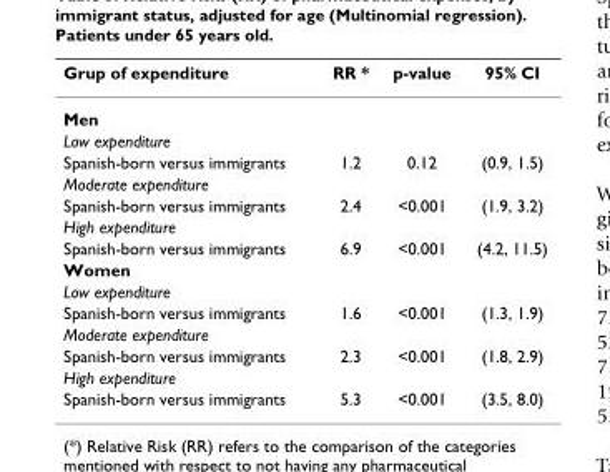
<table><thead><tr><td>Grup of expenditure</td><td>RR *</td><td>p-value</td><td>95% CI</td></tr></thead><tbody><tr><td colspan="4">Men</td></tr><tr><td colspan="4">Low expenditure</td></tr><tr><td>Spanish-born versus immigrants</td><td>1.2</td><td>0.12</td><td>(0.9, 1.5)</td></tr><tr><td colspan="4">Moderate expenditure</td></tr><tr><td>Spanish-born versus immigrants</td><td>2.4</td><td>&lt;0.001</td><td>(1.9, 3.2)</td></tr><tr><td colspan="4">High expenditure</td></tr><tr><td>Spanish-born versus immigrants</td><td>6.9</td><td>&lt;0.001</td><td>(4.2, 11.5)</td></tr><tr><td colspan="4">Women</td></tr><tr><td colspan="4">Low expenditure</td></tr><tr><td>Spanish-born versus immigrants</td><td>1.6</td><td>&lt;0.001</td><td>(1.3, 1.9)</td></tr><tr><td colspan="4">Moderate expenditure</td></tr><tr><td>Spanish-born versus immigrants</td><td>2.3</td><td>&lt;0.001</td><td>(1.8, 2.9)</td></tr><tr><td colspan="4">High expenditure</td></tr><tr><td>Spanish-born versus immigrants</td><td>5.3</td><td>&lt;0.001</td><td>(3.5, 8.0)</td></tr></tbody></table>